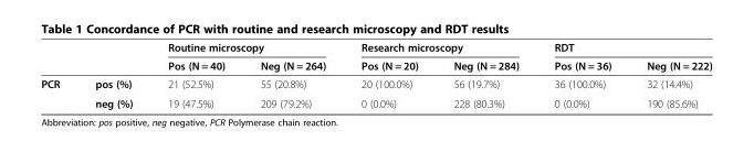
<table><thead><tr><td rowspan="2"></td><td rowspan="2"></td><td colspan="2">Routine microscopy</td><td colspan="2">Research microscopy</td><td colspan="2">RDT</td></tr><tr><td>Pos (N = 40)</td><td>Neg (N = 264)</td><td>Pos (N = 20)</td><td>Neg (N = 284)</td><td>Pos (N = 36)</td><td>Neg (N = 222)</td></tr></thead><tbody><tr><td rowspan="2">PCR</td><td>pos (%)</td><td>21 (52.5%)</td><td>55 (20.8%)</td><td>20 (100.0%)</td><td>56 (19.7%)</td><td>36 (100.0%)</td><td>32 (14.4%)</td></tr><tr><td>neg (%)</td><td>19 (47.5%)</td><td>209 (79.2%)</td><td>0 (0.0%)</td><td>228 (80.3%)</td><td>0 (0.0%)</td><td>190 (85.6%)</td></tr></tbody></table>